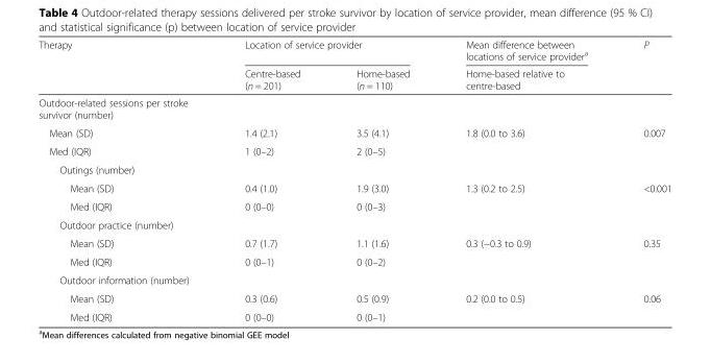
<table><thead><tr><td rowspan="2">Therapy</td><td colspan="2">Location of service provider</td><td rowspan="2">Mean difference between locations of service provider<sup>a</sup> Home-based relative to centre-based</td><td rowspan="2">P</td></tr><tr><td>Centre-based (n = 201)</td><td>Home-based (n = 110)</td></tr></thead><tbody><tr><td colspan="5">Outdoor-related sessions per stroke survivor (number)</td></tr><tr><td>Mean (SD)</td><td>1.4 (2.1)</td><td>3.5 (4.1)</td><td>1.8 (0.0 to 3.6)</td><td>0.007</td></tr><tr><td>Med (IQR)</td><td>1 (0–2)</td><td>2 (0–5)</td><td></td><td></td></tr><tr><td colspan="5">Outings (number)</td></tr><tr><td>Mean (SD)</td><td>0.4 (1.0)</td><td>1.9 (3.0)</td><td>1.3 (0.2 to 2.5)</td><td>&lt;0.001</td></tr><tr><td>Med (IQR)</td><td>0 (0–0)</td><td>0 (0–3)</td><td></td><td></td></tr><tr><td colspan="5">Outdoor practice (number)</td></tr><tr><td>Mean (SD)</td><td>0.7 (1.7)</td><td>1.1 (1.6)</td><td>0.3 (−0.3 to 0.9)</td><td>0.35</td></tr><tr><td>Med (IQR)</td><td>0 (0–1)</td><td>0 (0–2)</td><td></td><td></td></tr><tr><td colspan="5">Outdoor information (number)</td></tr><tr><td>Mean (SD)</td><td>0.3 (0.6)</td><td>0.5 (0.9)</td><td>0.2 (0.0 to 0.5)</td><td>0.06</td></tr><tr><td>Med (IQR)</td><td>0 (0–0)</td><td>0 (0–1)</td><td></td><td></td></tr></tbody></table>